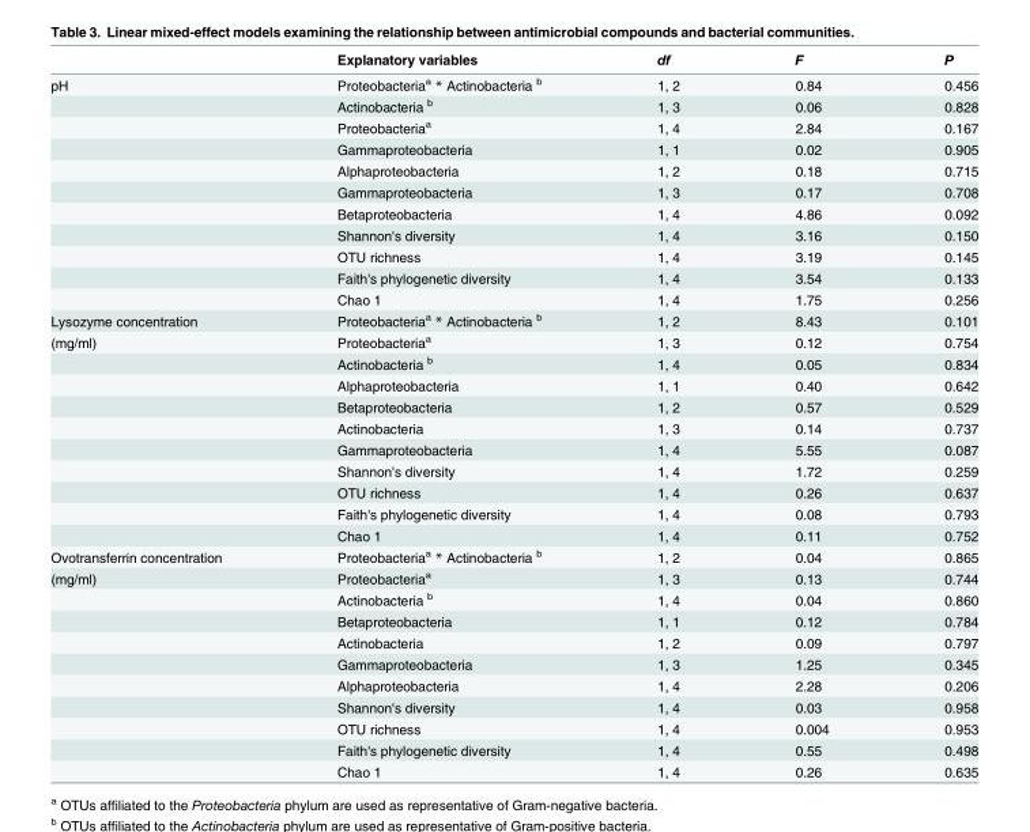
<table><thead><tr><td></td><td>Explanatory variables</td><td>df</td><td>F</td><td>P</td></tr></thead><tbody><tr><td rowspan="11">pH</td><td>Proteobacteria<sup>a</sup> * Actinobacteria <sup>b</sup></td><td>1, 2</td><td>0.84</td><td>0.456</td></tr><tr><td>Actinobacteria <sup>b</sup></td><td>1, 3</td><td>0.06</td><td>0.828</td></tr><tr><td>Proteobacteria<sup>a</sup></td><td>1, 4</td><td>2.84</td><td>0.167</td></tr><tr><td>Gammaproteobacteria</td><td>1, 1</td><td>0.02</td><td>0.905</td></tr><tr><td>Alphaproteobacteria</td><td>1, 2</td><td>0.18</td><td>0.715</td></tr><tr><td>Gammaproteobacteria</td><td>1, 3</td><td>0.17</td><td>0.708</td></tr><tr><td>Betaproteobacteria</td><td>1, 4</td><td>4.86</td><td>0.092</td></tr><tr><td>Shannon&#x27;s diversity</td><td>1, 4</td><td>3.16</td><td>0.150</td></tr><tr><td>OTU richness</td><td>1, 4</td><td>3.19</td><td>0.145</td></tr><tr><td>Faith&#x27;s phylogenetic diversity</td><td>1, 4</td><td>3.54</td><td>0.133</td></tr><tr><td>Chao 1</td><td>1, 4</td><td>1.75</td><td>0.256</td></tr><tr><td>Lysozyme concentration</td><td>Proteobacteria<sup>a</sup> * Actinobacteria <sup>b</sup></td><td>1, 2</td><td>8.43</td><td>0.101</td></tr><tr><td rowspan="10">(mg/ml)</td><td>Proteobacteria<sup>a</sup></td><td>1, 3</td><td>0.12</td><td>0.754</td></tr><tr><td>Actinobacteria <sup>b</sup></td><td>1, 4</td><td>0.05</td><td>0.834</td></tr><tr><td>Alphaproteobacteria</td><td>1, 1</td><td>0.40</td><td>0.642</td></tr><tr><td>Betaproteobacteria</td><td>1, 2</td><td>0.57</td><td>0.529</td></tr><tr><td>Actinobacteria</td><td>1, 3</td><td>0.14</td><td>0.737</td></tr><tr><td>Gammaproteobacteria</td><td>1, 4</td><td>5.55</td><td>0.087</td></tr><tr><td>Shannon&#x27;s diversity</td><td>1, 4</td><td>1.72</td><td>0.259</td></tr><tr><td>OTU richness</td><td>1, 4</td><td>0.26</td><td>0.637</td></tr><tr><td>Faith&#x27;s phylogenetic diversity</td><td>1, 4</td><td>0.08</td><td>0.793</td></tr><tr><td>Chao 1</td><td>1, 4</td><td>0.11</td><td>0.752</td></tr><tr><td>Ovotransferrin concentration</td><td>Proteobacteria<sup>a</sup> * Actinobacteria <sup>b</sup></td><td>1, 2</td><td>0.04</td><td>0.865</td></tr><tr><td rowspan="10">(mg/ml)</td><td>Proteobacteria<sup>a</sup></td><td>1, 3</td><td>0.13</td><td>0.744</td></tr><tr><td>Actinobacteria <sup>b</sup></td><td>1, 4</td><td>0.04</td><td>0.860</td></tr><tr><td>Betaproteobacteria</td><td>1, 1</td><td>0.12</td><td>0.784</td></tr><tr><td>Actinobacteria</td><td>1, 2</td><td>0.09</td><td>0.797</td></tr><tr><td>Gammaproteobacteria</td><td>1, 3</td><td>1.25</td><td>0.345</td></tr><tr><td>Alphaproteobacteria</td><td>1, 4</td><td>2.28</td><td>0.206</td></tr><tr><td>Shannon&#x27;s diversity</td><td>1, 4</td><td>0.03</td><td>0.958</td></tr><tr><td>OTU richness</td><td>1, 4</td><td>0.004</td><td>0.953</td></tr><tr><td>Faith&#x27;s phylogenetic diversity</td><td>1, 4</td><td>0.55</td><td>0.498</td></tr><tr><td>Chao 1</td><td>1, 4</td><td>0.26</td><td>0.635</td></tr></tbody></table>